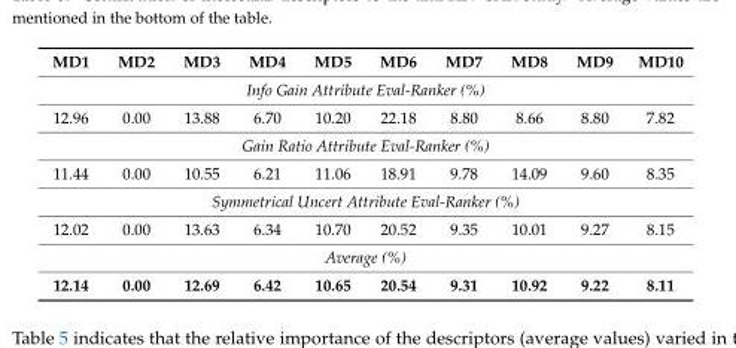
<table><thead><tr><td>MD1</td><td>MD2</td><td>MD3</td><td>MD4</td><td>MD5</td><td>MD6</td><td>MD7</td><td>MD8</td><td>MD9</td><td>MD10</td></tr></thead><tbody><tr><td colspan="10">Info Gain Attribute Eval-Ranker (%)</td></tr><tr><td>12.96</td><td>0.00</td><td>13.88</td><td>6.70</td><td>10.20</td><td>22.18</td><td>8.80</td><td>8.66</td><td>8.80</td><td>7.82</td></tr><tr><td colspan="10">Gain Ratio Attribute Eval-Ranker (%)</td></tr><tr><td>11.44</td><td>0.00</td><td>10.55</td><td>6.21</td><td>11.06</td><td>18.91</td><td>9.78</td><td>14.09</td><td>9.60</td><td>8.35</td></tr><tr><td colspan="10">Symmetrical Uncert Attribute Eval-Ranker (%)</td></tr><tr><td>12.02</td><td>0.00</td><td>13.63</td><td>6.34</td><td>10.70</td><td>20.52</td><td>9.35</td><td>10.01</td><td>9.27</td><td>8.15</td></tr><tr><td colspan="10">Average (%)</td></tr><tr><td>12.14</td><td>0.00</td><td>12.69</td><td>6.42</td><td>10.65</td><td>20.54</td><td>9.31</td><td>10.92</td><td>9.22</td><td>8.11</td></tr></tbody></table>